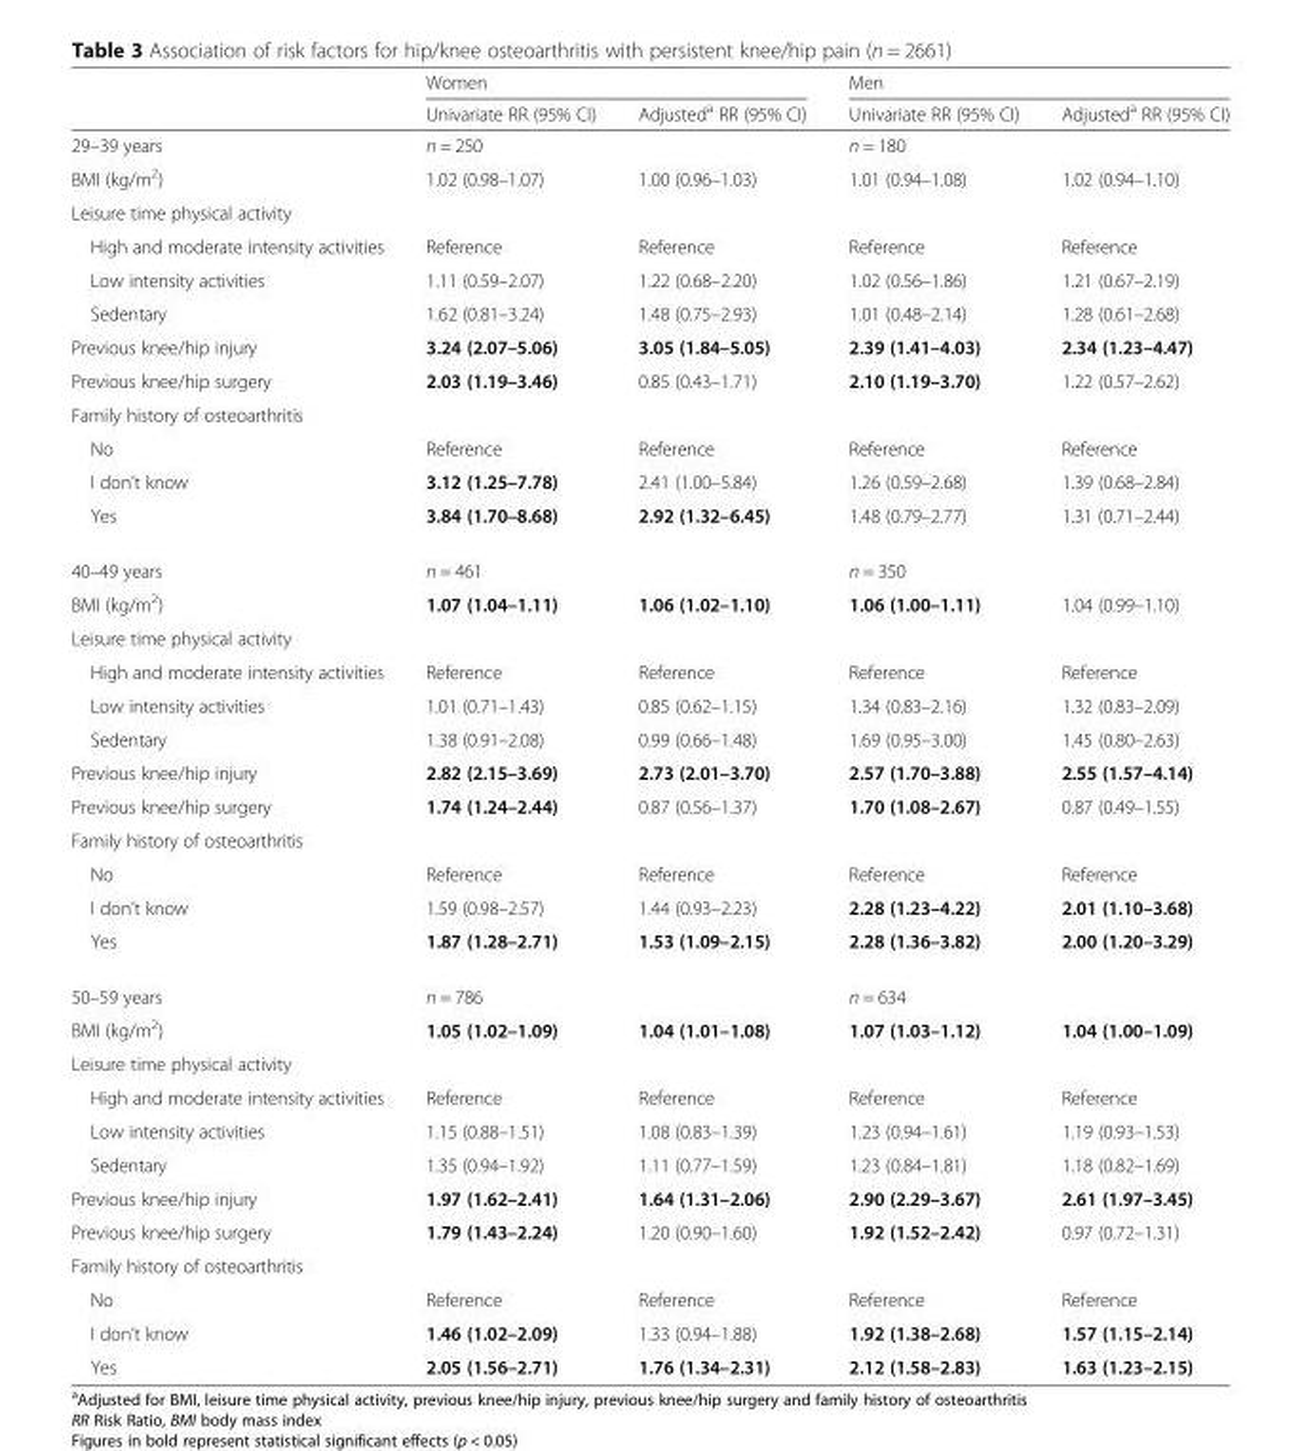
<table><thead><tr><td rowspan="2"></td><td colspan="2">Women</td><td colspan="2">Men</td></tr><tr><td>Univariate RR (95% CI)</td><td>Adjusted<sup>a</sup> RR (95% CI)</td><td>Univariate RR (95% CI)</td><td>Adjusted<sup>a</sup> RR (95% CI)</td></tr></thead><tbody><tr><td>29–39 years</td><td>n = 250</td><td></td><td>n = 180</td><td></td></tr><tr><td>BMI (kg/m<sup>2</sup>)</td><td>1.02 (0.98–1.07)</td><td>1.00 (0.96–1.03)</td><td>1.01 (0.94–1.08)</td><td>1.02 (0.94–1.10)</td></tr><tr><td colspan="5">Leisure time physical activity</td></tr><tr><td>High and moderate intensity activities</td><td>Reference</td><td>Reference</td><td>Reference</td><td>Reference</td></tr><tr><td>Low intensity activities</td><td>1.11 (0.59–2.07)</td><td>1.22 (0.68–2.20)</td><td>1.02 (0.56–1.86)</td><td>1.21 (0.67–2.19)</td></tr><tr><td>Sedentary</td><td>1.62 (0.81–3.24)</td><td>1.48 (0.75–2.93)</td><td>1.01 (0.48–2.14)</td><td>1.28 (0.61–2.68)</td></tr><tr><td>Previous knee/hip injury</td><td>3.24 (2.07–5.06)</td><td>3.05 (1.84–5.05)</td><td>2.39 (1.41–4.03)</td><td>2.34 (1.23–4.47)</td></tr><tr><td>Previous knee/hip surgery</td><td>2.03 (1.19–3.46)</td><td>0.85 (0.43–1.71)</td><td>2.10 (1.19–3.70)</td><td>1.22 (0.57–2.62)</td></tr><tr><td colspan="5">Family history of osteoarthritis</td></tr><tr><td>No</td><td>Reference</td><td>Reference</td><td>Reference</td><td>Reference</td></tr><tr><td>I don’t know</td><td>3.12 (1.25–7.78)</td><td>2.41 (1.00–5.84)</td><td>1.26 (0.59–2.68)</td><td>1.39 (0.68–2.84)</td></tr><tr><td>Yes</td><td>3.84 (1.70–8.68)</td><td>2.92 (1.32–6.45)</td><td>1.48 (0.79–2.77)</td><td>1.31 (0.71–2.44)</td></tr><tr><td>40–49 years</td><td>n = 461</td><td></td><td>n = 350</td><td></td></tr><tr><td>BMI (kg/m<sup>2</sup>)</td><td>1.07 (1.04–1.11)</td><td>1.06 (1.02–1.10)</td><td>1.06 (1.00–1.11)</td><td>1.04 (0.99–1.10)</td></tr><tr><td colspan="5">Leisure time physical activity</td></tr><tr><td>High and moderate intensity activities</td><td>Reference</td><td>Reference</td><td>Reference</td><td>Reference</td></tr><tr><td>Low intensity activities</td><td>1.01 (0.71–1.43)</td><td>0.85 (0.62–1.15)</td><td>1.34 (0.83–2.16)</td><td>1.32 (0.83–2.09)</td></tr><tr><td>Sedentary</td><td>1.38 (0.91–2.08)</td><td>0.99 (0.66–1.48)</td><td>1.69 (0.95–3.00)</td><td>1.45 (0.80–2.63)</td></tr><tr><td>Previous knee/hip injury</td><td>2.82 (2.15–3.69)</td><td>2.73 (2.01–3.70)</td><td>2.57 (1.70–3.88)</td><td>2.55 (1.57–4.14)</td></tr><tr><td>Previous knee/hip surgery</td><td>1.74 (1.24–2.44)</td><td>0.87 (0.56–1.37)</td><td>1.70 (1.08–2.67)</td><td>0.87 (0.49–1.55)</td></tr><tr><td colspan="5">Family history of osteoarthritis</td></tr><tr><td>No</td><td>Reference</td><td>Reference</td><td>Reference</td><td>Reference</td></tr><tr><td>I don’t know</td><td>1.59 (0.98–2.57)</td><td>1.44 (0.93–2.23)</td><td>2.28 (1.23–4.22)</td><td>2.01 (1.10–3.68)</td></tr><tr><td>Yes</td><td>1.87 (1.28–2.71)</td><td>1.53 (1.09–2.15)</td><td>2.28 (1.36–3.82)</td><td>2.00 (1.20–3.29)</td></tr><tr><td>50–59 years</td><td>n = 786</td><td></td><td>n = 634</td><td></td></tr><tr><td>BMI (kg/m<sup>2</sup>)</td><td>1.05 (1.02–1.09)</td><td>1.04 (1.01–1.08)</td><td>1.07 (1.03–1.12)</td><td>1.04 (1.00–1.09)</td></tr><tr><td colspan="5">Leisure time physical activity</td></tr><tr><td>High and moderate intensity activities</td><td>Reference</td><td>Reference</td><td>Reference</td><td>Reference</td></tr><tr><td>Low intensity activities</td><td>1.15 (0.88–1.51)</td><td>1.08 (0.83–1.39)</td><td>1.23 (0.94–1.61)</td><td>1.19 (0.93–1.53)</td></tr><tr><td>Sedentary</td><td>1.35 (0.94–1.92)</td><td>1.11 (0.77–1.59)</td><td>1.23 (0.84–1.81)</td><td>1.18 (0.82–1.69)</td></tr><tr><td>Previous knee/hip injury</td><td>1.97 (1.62–2.41)</td><td>1.64 (1.31–2.06)</td><td>2.90 (2.29–3.67)</td><td>2.61 (1.97–3.45)</td></tr><tr><td>Previous knee/hip surgery</td><td>1.79 (1.43–2.24)</td><td>1.20 (0.90–1.60)</td><td>1.92 (1.52–2.42)</td><td>0.97 (0.72–1.31)</td></tr><tr><td colspan="5">Family history of osteoarthritis</td></tr><tr><td>No</td><td>Reference</td><td>Reference</td><td>Reference</td><td>Reference</td></tr><tr><td>I don’t know</td><td>1.46 (1.02–2.09)</td><td>1.33 (0.94–1.88)</td><td>1.92 (1.38–2.68)</td><td>1.57 (1.15–2.14)</td></tr><tr><td>Yes</td><td>2.05 (1.56–2.71)</td><td>1.76 (1.34–2.31)</td><td>2.12 (1.58–2.83)</td><td>1.63 (1.23–2.15)</td></tr></tbody></table>